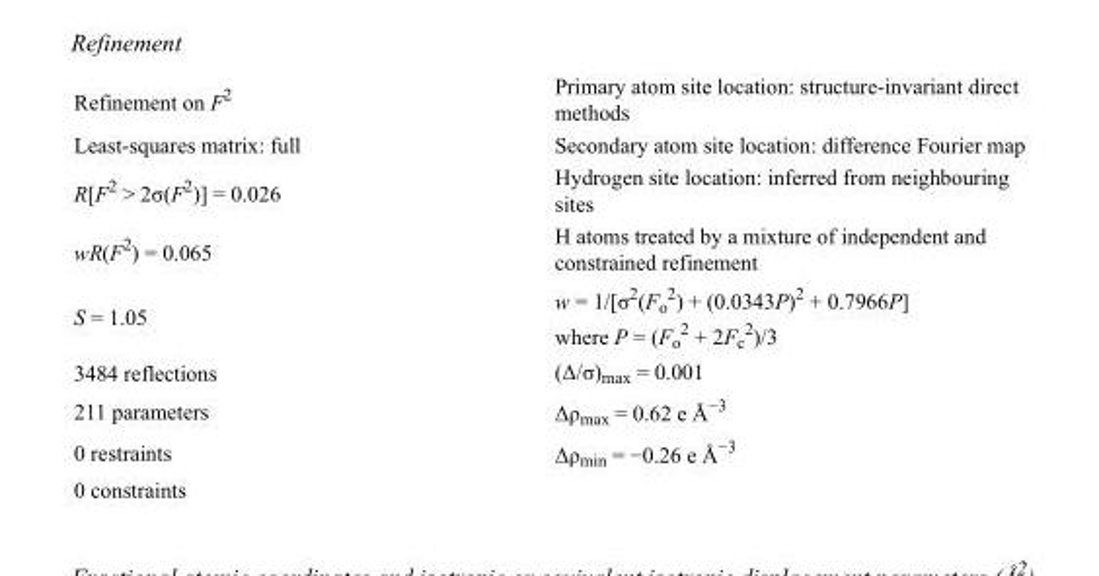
<table><tbody><tr><td>Refinement on F<sup>2</sup></td><td>Primary atom site location: structure-invariant direct methods</td></tr><tr><td>Least-squares matrix: full</td><td>Secondary atom site location: difference Fourier map</td></tr><tr><td>R[F<sup>2</sup> &gt; 2σ(F<sup>2</sup>)] = 0.026</td><td>Hydrogen site location: inferred from neighbouring sites</td></tr><tr><td>wR(F<sup>2</sup>) = 0.065</td><td>H atoms treated by a mixture of independent and constrained refinement</td></tr><tr><td>S = 1.05</td><td>w = 1/[σ<sup>2</sup>(F<sub>o</sub> <sup>2</sup>) + (0.0343P)<sup>2</sup> + 0.7966P] where P = (F<sub>o</sub> <sup>2</sup> + 2F<sub>c</sub> <sup>2</sup>)/3</td></tr><tr><td>3484 reflections</td><td>(Δ/σ)<sub>max</sub> = 0.001</td></tr><tr><td>211 parameters</td><td>Δρ<sub>max</sub> = 0.62 e Å<sup>−3</sup></td></tr><tr><td>0 restraints</td><td>Δρmin = −0.26 e Å−3</td></tr><tr><td>0 constraints</td><td></td></tr></tbody></table>